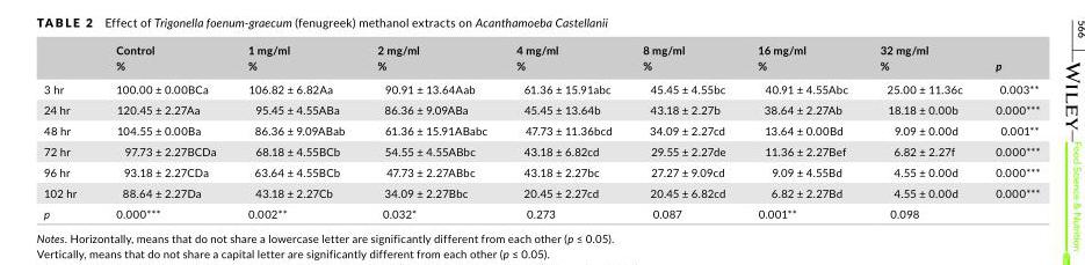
<table><thead><tr><td></td><td>Control %</td><td>1 mg/ml %</td><td>2 mg/ml %</td><td>4 mg/ml %</td><td>8 mg/ml %</td><td>16 mg/ml %</td><td>32 mg/ml %</td><td>p</td></tr></thead><tbody><tr><td>3 hr</td><td>100.00 ± 0.00BCa</td><td>106.82 ± 6.82Aa</td><td>90.91 ± 13.64Aab</td><td>61.36 ± 15.91abc</td><td>45.45 ± 4.55bc</td><td>40.91 ± 4.55Abc</td><td>25.00 ± 11.36c</td><td>0.003**</td></tr><tr><td>24 hr</td><td>120.45 ± 2.27Aa</td><td>95.45 ± 4.55ABa</td><td>86.36 ± 9.09ABa</td><td>45.45 ± 13.64b</td><td>43.18 ± 2.27b</td><td>38.64 ± 2.27Ab</td><td>18.18 ± 0.00b</td><td>0.000***</td></tr><tr><td>48 hr</td><td>104.55 ± 0.00Ba</td><td>86.36 ± 9.09ABab</td><td>61.36 ± 15.91ABabc</td><td>47.73 ± 11.36bcd</td><td>34.09 ± 2.27cd</td><td>13.64 ± 0.00Bd</td><td>9.09 ± 0.00d</td><td>0.001**</td></tr><tr><td>72 hr</td><td>97.73 ± 2.27BCDa</td><td>68.18 ± 4.55BCb</td><td>54.55 ± 4.55ABbc</td><td>43.18 ± 6.82cd</td><td>29.55 ± 2.27de</td><td>11.36 ± 2.27Bef</td><td>6.82 ± 2.27f</td><td>0.000***</td></tr><tr><td>96 hr</td><td>93.18 ± 2.27CDa</td><td>63.64 ± 4.55BCb</td><td>47.73 ± 2.27ABbc</td><td>43.18 ± 2.27bc</td><td>27.27 ± 9.09cd</td><td>9.09 ± 4.55Bd</td><td>4.55 ± 0.00d</td><td>0.000***</td></tr><tr><td>102 hr</td><td>88.64 ± 2.27Da</td><td>43.18 ± 2.27Cb</td><td>34.09 ± 2.27Bbc</td><td>20.45 ± 2.27cd</td><td>20.45 ± 6.82cd</td><td>6.82 ± 2.27Bd</td><td>4.55 ± 0.00d</td><td>0.000***</td></tr><tr><td>p</td><td>0.000***</td><td>0.002**</td><td>0.032*</td><td>0.273</td><td>0.087</td><td>0.001**</td><td>0.098</td><td></td></tr></tbody></table>